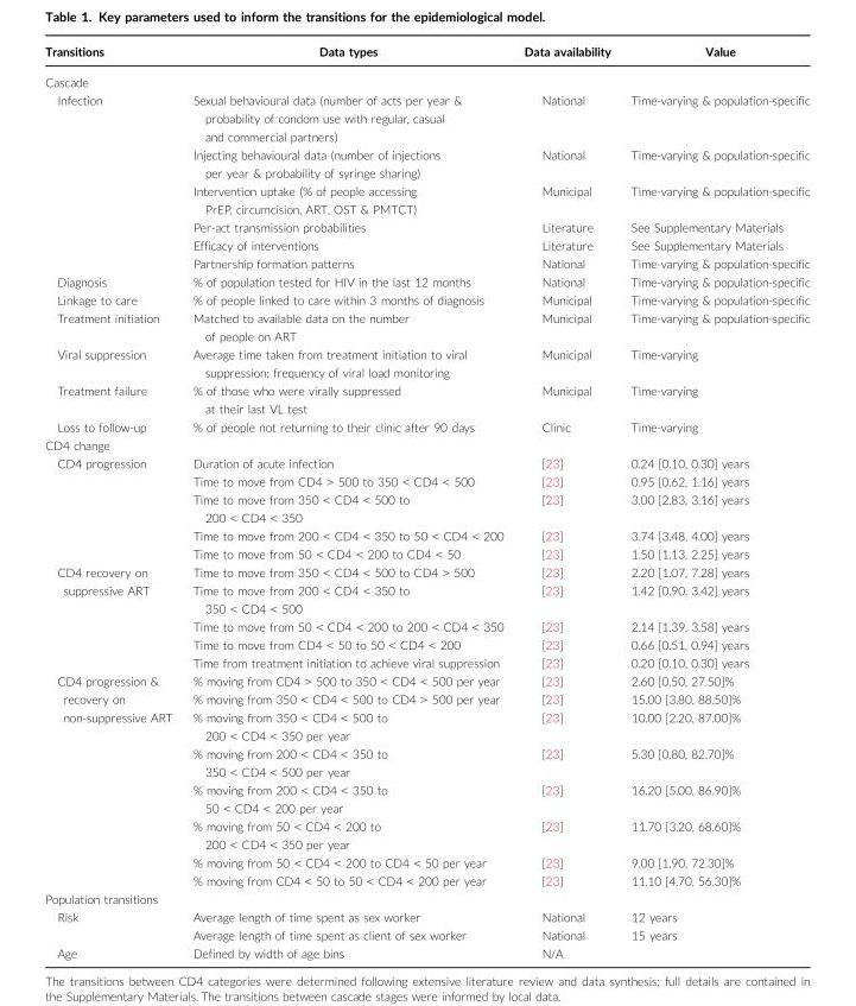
<table><thead><tr><td>Transitions</td><td>Data types</td><td>Data availability</td><td>Value</td></tr></thead><tbody><tr><td colspan="4">Cascade</td></tr><tr><td rowspan="6">Infection</td><td>Sexual behavioural data (number of acts per year &amp; probability of condom use with regular, casual and commercial partners)</td><td>National</td><td>Time-varying &amp; population-specific</td></tr><tr><td>Injecting behavioural data (number of injections per year &amp; probability of syringe sharing)</td><td>National</td><td>Time-varying &amp; population-specific</td></tr><tr><td>Intervention uptake (% of people accessing PrEP, circumcision, ART, OST &amp; PMTCT)</td><td>Municipal</td><td>Time-varying &amp; population-specific</td></tr><tr><td>Per-act transmission probabilities</td><td>Literature</td><td>See Supplementary Materials</td></tr><tr><td>Efficacy of interventions</td><td>Literature</td><td>See Supplementary Materials</td></tr><tr><td>Partnership formation patterns</td><td>National</td><td>Time-varying &amp; population-specific</td></tr><tr><td>Diagnosis</td><td>% of population tested for HIV in the last 12 months</td><td>National</td><td>Time-varying &amp; population-specific</td></tr><tr><td>Linkage to care</td><td>% of people linked to care within 3 months of diagnosis</td><td>Municipal</td><td>Time-varying &amp; population-specific</td></tr><tr><td>Treatment initiation</td><td>Matched to available data on the number of people on ART</td><td>Municipal</td><td>Time-varying &amp; population-specific</td></tr><tr><td>Viral suppression</td><td>Average time taken from treatment initiation to viral suppression; frequency of viral load monitoring</td><td>Municipal</td><td>Time-varying</td></tr><tr><td>Treatment failure</td><td>% of those who were virally suppressed at their last VL test</td><td>Municipal</td><td>Time-varying</td></tr><tr><td>Loss to follow-up</td><td>% of people not returning to their clinic after 90 days</td><td>Clinic</td><td>Time-varying</td></tr><tr><td colspan="4">CD4 change</td></tr><tr><td rowspan="5">CD4 progression</td><td>Duration of acute infection</td><td>[23]</td><td>0.24 [0.10, 0.30] years</td></tr><tr><td>Time to move from CD4 &gt; 500 to 350 &lt; CD4 &lt; 500</td><td>[23]</td><td>0.95 [0.62, 1.16] years</td></tr><tr><td>Time to move from 350 &lt; CD4 &lt; 500 to 200 &lt; CD4 &lt; 350</td><td>[23]</td><td>3.00 [2.83, 3.16] years</td></tr><tr><td>Time to move from 200 &lt; CD4 &lt; 350 to 50 &lt; CD4 &lt; 200</td><td>[23]</td><td>3.74 [3.48, 4.00] years</td></tr><tr><td>Time to move from 50 &lt; CD4 &lt; 200 to CD4 &lt; 50</td><td>[23]</td><td>1.50 [1.13, 2.25] years</td></tr><tr><td rowspan="5">CD4 recovery on suppressive ART</td><td>Time to move from 350 &lt; CD4 &lt; 500 to CD4 &gt; 500</td><td>[23]</td><td>2.20 [1.07, 7.28] years</td></tr><tr><td>Time to move from 200 &lt; CD4 &lt; 350 to 350 &lt; CD4 &lt; 500</td><td>[23]</td><td>1.42 [0.90, 3.42] years</td></tr><tr><td>Time to move from 50 &lt; CD4 &lt; 200 to 200 &lt; CD4 &lt; 350</td><td>[23]</td><td>2.14 [1.39, 3.58] years</td></tr><tr><td>Time to move from CD4 &lt; 50 to 50 &lt; CD4 &lt; 200</td><td>[23]</td><td>0.66 [0.51, 0.94] years</td></tr><tr><td>Time from treatment initiation to achieve viral suppression</td><td>[23]</td><td>0.20 [0.10, 0.30] years</td></tr><tr><td rowspan="8">CD4 progression &amp; recovery on non-suppressive ART</td><td>% moving from CD4 &gt; 500 to 350 &lt; CD4 &lt; 500 per year</td><td>[23]</td><td>2.60 [0.50, 27.50]%</td></tr><tr><td>% moving from 350 &lt; CD4 &lt; 500 to CD4 &gt; 500 per year</td><td>[23]</td><td>15.00 [3.80, 88.50]%</td></tr><tr><td>% moving from 350 &lt; CD4 &lt; 500 to 200 &lt; CD4 &lt; 350 per year</td><td>[23]</td><td>10.00 [2.20, 87.00]%</td></tr><tr><td>% moving from 200 &lt; CD4 &lt; 350 to 350 &lt; CD4 &lt; 500 per year</td><td>[23]</td><td>5.30 [0.80, 82.70]%</td></tr><tr><td>% moving from 200 &lt; CD4 &lt; 350 to 50 &lt; CD4 &lt; 200 per year</td><td>[23]</td><td>16.20 [5.00, 86.90]%</td></tr><tr><td>% moving from 50 &lt; CD4 &lt; 200 to 200 &lt; CD4 &lt; 350 per year</td><td>[23]</td><td>11.70 [3.20, 68.60]%</td></tr><tr><td>% moving from 50 &lt; CD4 &lt; 200 to CD4 &lt; 50 per year</td><td>[23]</td><td>9.00 [1.90, 72.30]%</td></tr><tr><td>% moving from CD4 &lt; 50 to 50 &lt; CD4 &lt; 200 per year</td><td>[23]</td><td>11.10 [4.70, 56.30]%</td></tr><tr><td colspan="4">Population transitions</td></tr><tr><td rowspan="2">Risk</td><td>Average length of time spent as sex worker</td><td>National</td><td>12 years</td></tr><tr><td>Average length of time spent as client of sex worker</td><td>National</td><td>15 years</td></tr><tr><td>Age</td><td>Defined by width of age bins</td><td>N/A</td><td></td></tr></tbody></table>